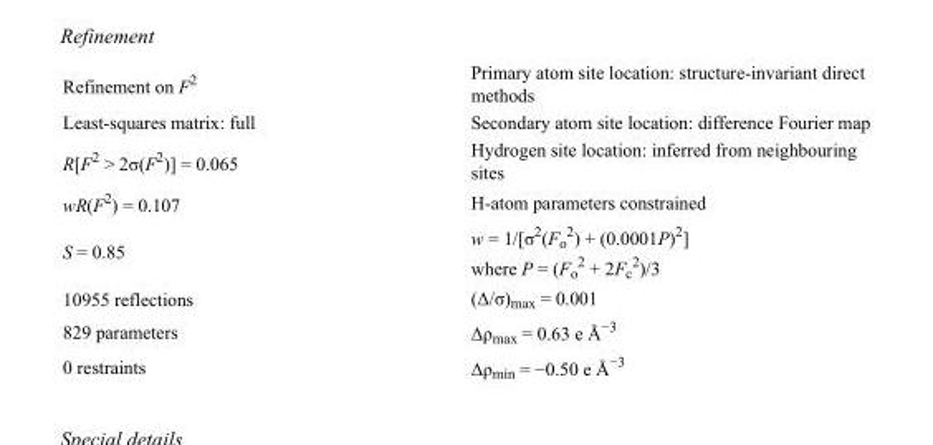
<table><tbody><tr><td>Refinement on F<sup>2</sup></td><td>Primary atom site location: structure-invariant direct methods</td></tr><tr><td>Least-squares matrix: full</td><td>Secondary atom site location: difference Fourier map</td></tr><tr><td>R[F<sup>2</sup> &gt; 2σ(F<sup>2</sup>)] = 0.065</td><td>Hydrogen site location: inferred from neighbouring sites</td></tr><tr><td>wR(F<sup>2</sup>) = 0.107</td><td>H-atom parameters constrained</td></tr><tr><td>S = 0.85</td><td>w = 1/[σ<sup>2</sup>(F<sub>o</sub> <sup>2</sup>) + (0.0001P)<sup>2</sup>] where P = (F<sub>o</sub> <sup>2</sup> + 2F<sub>c</sub> <sup>2</sup>)/3</td></tr><tr><td>10955 reflections</td><td>(Δ/σ)<sub>max</sub> = 0.001</td></tr><tr><td>829 parameters</td><td>Δρ<sub>max</sub> = 0.63 e Å<sup>−3</sup></td></tr><tr><td>0 restraints</td><td>Δρ<sub>min</sub> = −0.50 e Å<sup>−3</sup></td></tr></tbody></table>